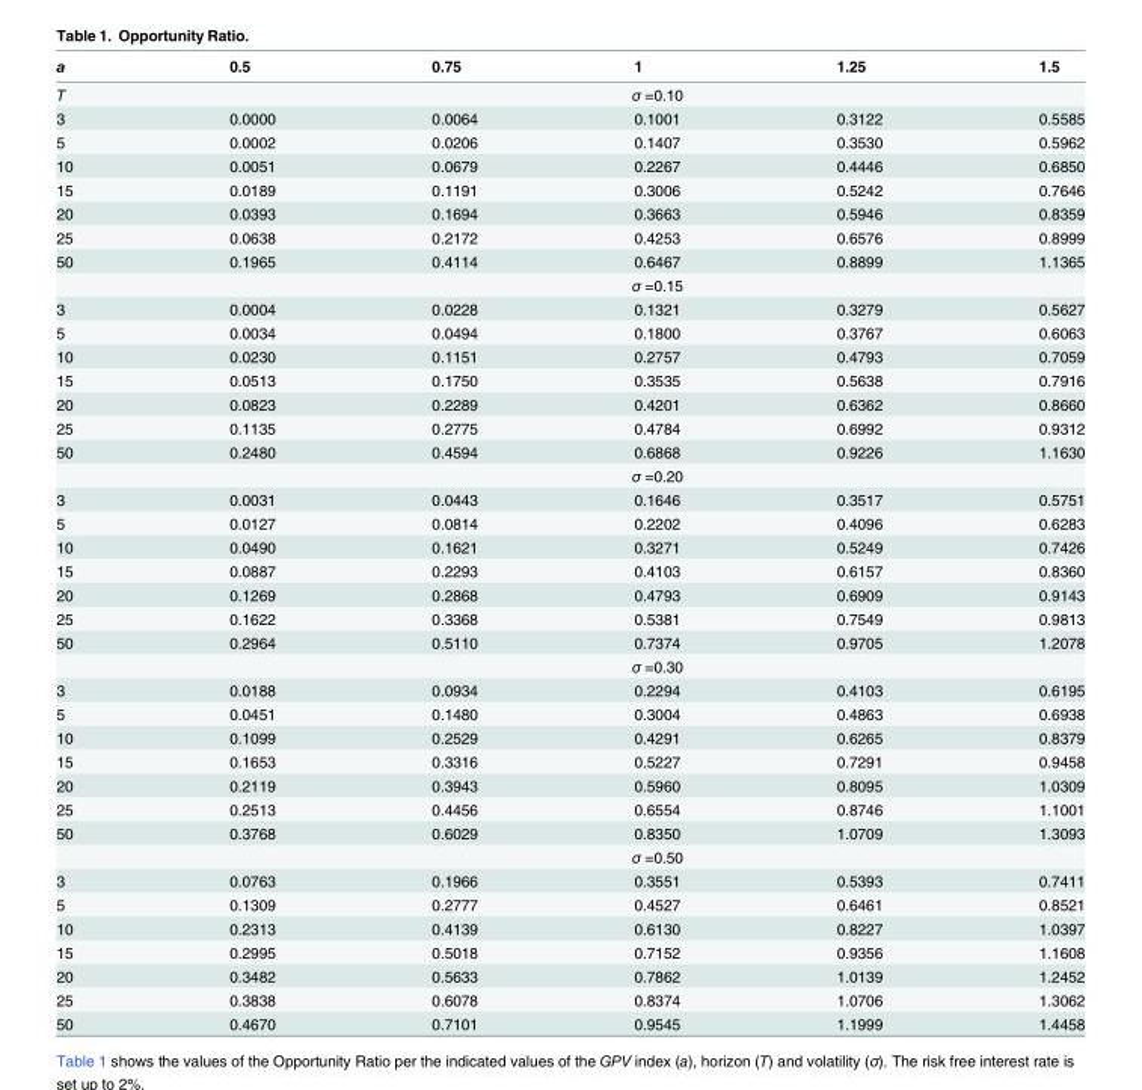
<table><thead><tr><td>a</td><td>0.5</td><td>0.75</td><td>1</td><td>1.25</td><td>1.5</td></tr></thead><tbody><tr><td>T</td><td colspan="5">σ =0.10</td></tr><tr><td>3</td><td>0.0000</td><td>0.0064</td><td>0.1001</td><td>0.3122</td><td>0.5585</td></tr><tr><td>5</td><td>0.0002</td><td>0.0206</td><td>0.1407</td><td>0.3530</td><td>0.5962</td></tr><tr><td>10</td><td>0.0051</td><td>0.0679</td><td>0.2267</td><td>0.4446</td><td>0.6850</td></tr><tr><td>15</td><td>0.0189</td><td>0.1191</td><td>0.3006</td><td>0.5242</td><td>0.7646</td></tr><tr><td>20</td><td>0.0393</td><td>0.1694</td><td>0.3663</td><td>0.5946</td><td>0.8359</td></tr><tr><td>25</td><td>0.0638</td><td>0.2172</td><td>0.4253</td><td>0.6576</td><td>0.8999</td></tr><tr><td rowspan="2">50</td><td>0.1965</td><td>0.4114</td><td>0.6467</td><td>0.8899</td><td>1.1365</td></tr><tr><td colspan="5">σ =0.15</td></tr><tr><td>3</td><td>0.0004</td><td>0.0228</td><td>0.1321</td><td>0.3279</td><td>0.5627</td></tr><tr><td>5</td><td>0.0034</td><td>0.0494</td><td>0.1800</td><td>0.3767</td><td>0.6063</td></tr><tr><td>10</td><td>0.0230</td><td>0.1151</td><td>0.2757</td><td>0.4793</td><td>0.7059</td></tr><tr><td>15</td><td>0.0513</td><td>0.1750</td><td>0.3535</td><td>0.5638</td><td>0.7916</td></tr><tr><td>20</td><td>0.0823</td><td>0.2289</td><td>0.4201</td><td>0.6362</td><td>0.8660</td></tr><tr><td>25</td><td>0.1135</td><td>0.2775</td><td>0.4784</td><td>0.6992</td><td>0.9312</td></tr><tr><td rowspan="2">50</td><td>0.2480</td><td>0.4594</td><td>0.6868</td><td>0.9226</td><td>1.1630</td></tr><tr><td colspan="5">σ =0.20</td></tr><tr><td>3</td><td>0.0031</td><td>0.0443</td><td>0.1646</td><td>0.3517</td><td>0.5751</td></tr><tr><td>5</td><td>0.0127</td><td>0.0814</td><td>0.2202</td><td>0.4096</td><td>0.6283</td></tr><tr><td>10</td><td>0.0490</td><td>0.1621</td><td>0.3271</td><td>0.5249</td><td>0.7426</td></tr><tr><td>15</td><td>0.0887</td><td>0.2293</td><td>0.4103</td><td>0.6157</td><td>0.8360</td></tr><tr><td>20</td><td>0.1269</td><td>0.2868</td><td>0.4793</td><td>0.6909</td><td>0.9143</td></tr><tr><td>25</td><td>0.1622</td><td>0.3368</td><td>0.5381</td><td>0.7549</td><td>0.9813</td></tr><tr><td rowspan="2">50</td><td>0.2964</td><td>0.5110</td><td>0.7374</td><td>0.9705</td><td>1.2078</td></tr><tr><td colspan="5">σ =0.30</td></tr><tr><td>3</td><td>0.0188</td><td>0.0934</td><td>0.2294</td><td>0.4103</td><td>0.6195</td></tr><tr><td>5</td><td>0.0451</td><td>0.1480</td><td>0.3004</td><td>0.4863</td><td>0.6938</td></tr><tr><td>10</td><td>0.1099</td><td>0.2529</td><td>0.4291</td><td>0.6265</td><td>0.8379</td></tr><tr><td>15</td><td>0.1653</td><td>0.3316</td><td>0.5227</td><td>0.7291</td><td>0.9458</td></tr><tr><td>20</td><td>0.2119</td><td>0.3943</td><td>0.5960</td><td>0.8095</td><td>1.0309</td></tr><tr><td>25</td><td>0.2513</td><td>0.4456</td><td>0.6554</td><td>0.8746</td><td>1.1001</td></tr><tr><td rowspan="2">50</td><td>0.3768</td><td>0.6029</td><td>0.8350</td><td>1.0709</td><td>1.3093</td></tr><tr><td colspan="5">σ =0.50</td></tr><tr><td>3</td><td>0.0763</td><td>0.1966</td><td>0.3551</td><td>0.5393</td><td>0.7411</td></tr><tr><td>5</td><td>0.1309</td><td>0.2777</td><td>0.4527</td><td>0.6461</td><td>0.8521</td></tr><tr><td>10</td><td>0.2313</td><td>0.4139</td><td>0.6130</td><td>0.8227</td><td>1.0397</td></tr><tr><td>15</td><td>0.2995</td><td>0.5018</td><td>0.7152</td><td>0.9356</td><td>1.1608</td></tr><tr><td>20</td><td>0.3482</td><td>0.5633</td><td>0.7862</td><td>1.0139</td><td>1.2452</td></tr><tr><td>25</td><td>0.3838</td><td>0.6078</td><td>0.8374</td><td>1.0706</td><td>1.3062</td></tr><tr><td>50</td><td>0.4670</td><td>0.7101</td><td>0.9545</td><td>1.1999</td><td>1.4458</td></tr></tbody></table>